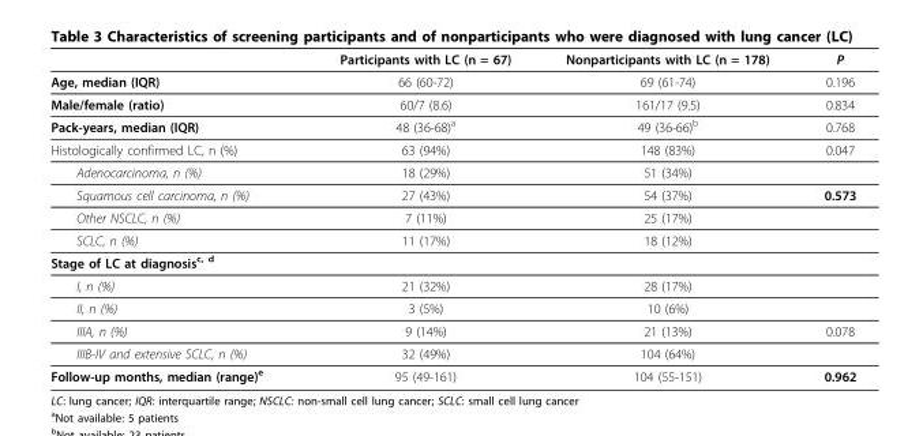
<table><thead><tr><td></td><td>Participants with LC (n = 67)</td><td>Nonparticipants with LC (n = 178)</td><td>P</td></tr></thead><tbody><tr><td>Age, median (IQR)</td><td>66 (60-72)</td><td>69 (61-74)</td><td>0.196</td></tr><tr><td>Male/female (ratio)</td><td>60/7 (8.6)</td><td>161/17 (9.5)</td><td>0.834</td></tr><tr><td>Pack-years, median (IQR)</td><td>48 (36-68)<sup>a</sup></td><td>49 (36-66)<sup>b</sup></td><td>0.768</td></tr><tr><td>Histologically confirmed LC, n (%)</td><td>63 (94%)</td><td>148 (83%)</td><td>0.047</td></tr><tr><td>Adenocarcinoma, n (%)</td><td>18 (29%)</td><td>51 (34%)</td><td></td></tr><tr><td>Squamous cell carcinoma, n (%)</td><td>27 (43%)</td><td>54 (37%)</td><td>0.573</td></tr><tr><td>Other NSCLC, n (%)</td><td>7 (11%)</td><td>25 (17%)</td><td></td></tr><tr><td>SCLC, n (%)</td><td>11 (17%)</td><td>18 (12%)</td><td></td></tr><tr><td colspan="4">Stage of LC at diagnosis<sup>c, d</sup></td></tr><tr><td>I, n (%)</td><td>21 (32%)</td><td>28 (17%)</td><td></td></tr><tr><td>II, n (%)</td><td>3 (5%)</td><td>10 (6%)</td><td></td></tr><tr><td>IIIA, n (%)</td><td>9 (14%)</td><td>21 (13%)</td><td>0.078</td></tr><tr><td>IIIB-IV and extensive SCLC, n (%)</td><td>32 (49%)</td><td>104 (64%)</td><td></td></tr><tr><td>Follow-up months, median (range)<sup>e</sup></td><td>95 (49-161)</td><td>104 (55-151)</td><td>0.962</td></tr></tbody></table>